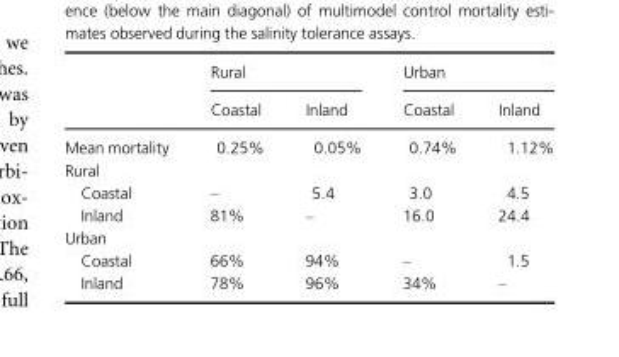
<table><thead><tr><td rowspan="2"></td><td colspan="2">Rural</td><td colspan="2">Urban</td></tr><tr><td>Coastal</td><td>Inland</td><td>Coastal</td><td>Inland</td></tr></thead><tbody><tr><td>Mean mortality</td><td>0.25%</td><td>0.05%</td><td>0.74%</td><td>1.12%</td></tr><tr><td colspan="5">Rural</td></tr><tr><td>Coastal</td><td>–</td><td>5.4</td><td>3.0</td><td>4.5</td></tr><tr><td>Inland</td><td>81%</td><td>–</td><td>16.0</td><td>24.4</td></tr><tr><td colspan="5">Urban</td></tr><tr><td>Coastal</td><td>66%</td><td>94%</td><td>–</td><td>1.5</td></tr><tr><td>Inland</td><td>78%</td><td>96%</td><td>34%</td><td>–</td></tr></tbody></table>